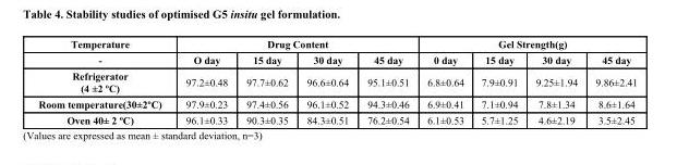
<table><thead><tr><td rowspan="2">Temperature -</td><td colspan="4">Drug Content</td><td colspan="4">Gel Strength(g)</td></tr><tr><td>O day</td><td>15 day</td><td>30 day</td><td>45 day</td><td>0 day</td><td>15 day</td><td>30 day</td><td>45 day</td></tr></thead><tbody><tr><td>Refrigerator (4 ±2 ºC)</td><td>97.2±0.48</td><td>97.7±0.62</td><td>96.6±0.64</td><td>95.1±0.51</td><td>6.8±0.64</td><td>7.9±0.91</td><td>9.25±1.94</td><td>9.86±2.41</td></tr><tr><td>Room temperature(30±2ºC)</td><td>97.9±0.23</td><td>97.4±0.56</td><td>96.1±0.52</td><td>94.3±0.46</td><td>6.9±0.41</td><td>7.1±0.94</td><td>7.8±1.34</td><td>8.6±1.64</td></tr><tr><td>Oven 40± 2 ºC)</td><td>96.1±0.33</td><td>90.3±0.35</td><td>84.3±0.51</td><td>76.2±0.54</td><td>6.1±0.53</td><td>5.7±1.25</td><td>4.6±2.19</td><td>3.5±2.45</td></tr></tbody></table>